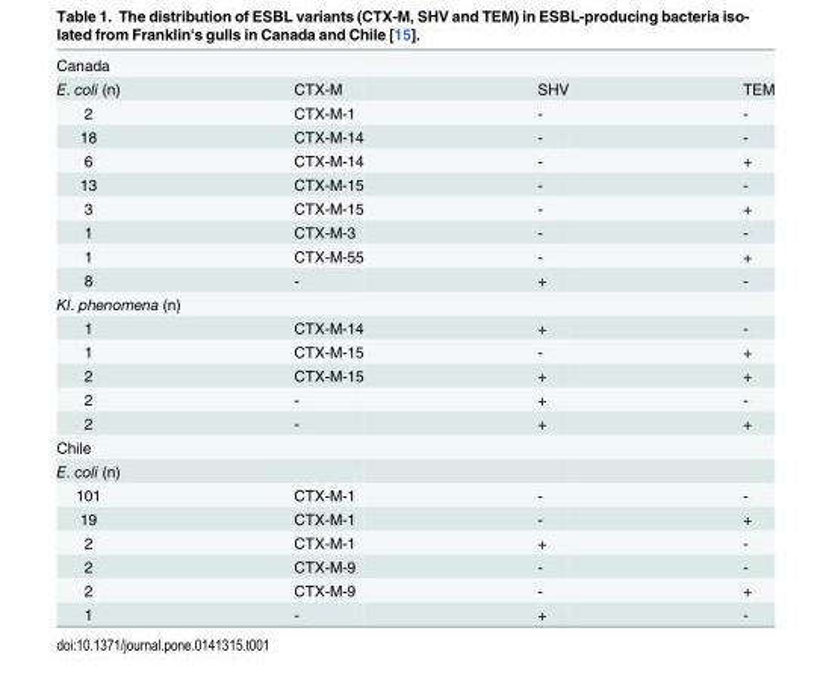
<table><tbody><tr><td colspan="4">Canada</td></tr><tr><td>E. coli (n)</td><td>CTX-M</td><td>SHV</td><td>TEM</td></tr><tr><td>2</td><td>CTX-M-1</td><td>-</td><td>-</td></tr><tr><td>18</td><td>CTX-M-14</td><td>-</td><td>-</td></tr><tr><td>6</td><td>CTX-M-14</td><td>-</td><td>+</td></tr><tr><td>13</td><td>CTX-M-15</td><td>-</td><td>-</td></tr><tr><td>3</td><td>CTX-M-15</td><td>-</td><td>+</td></tr><tr><td>1</td><td>CTX-M-3</td><td>-</td><td>-</td></tr><tr><td>1</td><td>CTX-M-55</td><td>-</td><td>+</td></tr><tr><td>8</td><td>-</td><td>+</td><td>-</td></tr><tr><td colspan="4">Kl. phenomena (n)</td></tr><tr><td>1</td><td>CTX-M-14</td><td>+</td><td>-</td></tr><tr><td>1</td><td>CTX-M-15</td><td>-</td><td>+</td></tr><tr><td>2</td><td>CTX-M-15</td><td>+</td><td>+</td></tr><tr><td>2</td><td>-</td><td>+</td><td>-</td></tr><tr><td>2</td><td>-</td><td>+</td><td>+</td></tr><tr><td colspan="4">Chile</td></tr><tr><td colspan="4">E. coli (n)</td></tr><tr><td>101</td><td>CTX-M-1</td><td>-</td><td>-</td></tr><tr><td>19</td><td>CTX-M-1</td><td>-</td><td>+</td></tr><tr><td>2</td><td>CTX-M-1</td><td>+</td><td>-</td></tr><tr><td>2</td><td>CTX-M-9</td><td>-</td><td>-</td></tr><tr><td>2</td><td>CTX-M-9</td><td>-</td><td>+</td></tr><tr><td>1</td><td>-</td><td>+</td><td>-</td></tr></tbody></table>